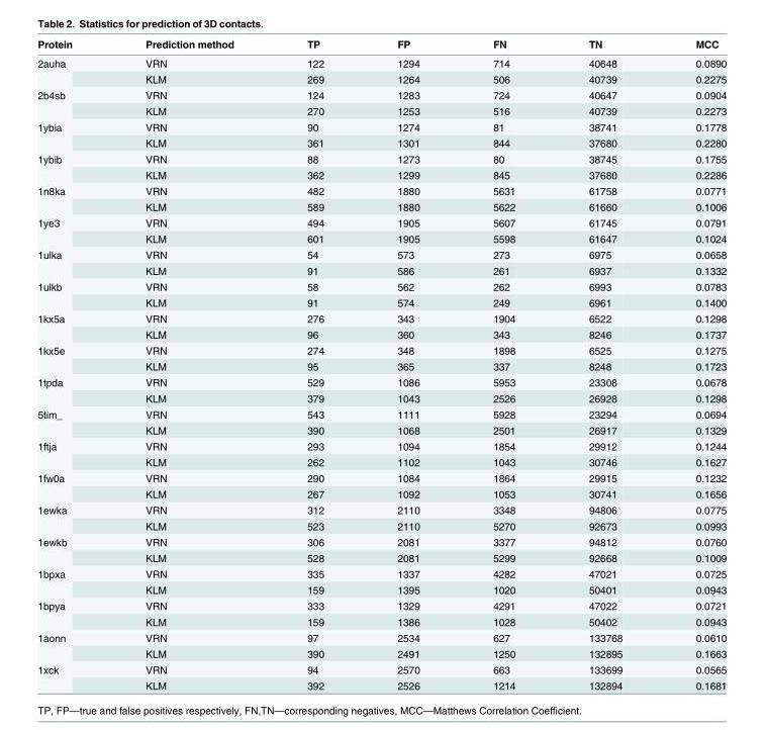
<table><thead><tr><td>Protein</td><td>Prediction method</td><td>TP</td><td>FP</td><td>FN</td><td>TN</td><td>MCC</td></tr></thead><tbody><tr><td rowspan="2">2auha</td><td>VRN</td><td>122</td><td>1294</td><td>714</td><td>40648</td><td>0.0890</td></tr><tr><td>KLM</td><td>269</td><td>1264</td><td>506</td><td>40739</td><td>0.2275</td></tr><tr><td rowspan="2">2b4sb</td><td>VRN</td><td>124</td><td>1283</td><td>724</td><td>40647</td><td>0.0904</td></tr><tr><td>KLM</td><td>270</td><td>1253</td><td>516</td><td>40739</td><td>0.2273</td></tr><tr><td rowspan="2">1ybia</td><td>VRN</td><td>90</td><td>1274</td><td>81</td><td>38741</td><td>0.1778</td></tr><tr><td>KLM</td><td>361</td><td>1301</td><td>844</td><td>37680</td><td>0.2280</td></tr><tr><td rowspan="2">1ybib</td><td>VRN</td><td>88</td><td>1273</td><td>80</td><td>38745</td><td>0.1755</td></tr><tr><td>KLM</td><td>362</td><td>1299</td><td>845</td><td>37680</td><td>0.2286</td></tr><tr><td rowspan="2">1n8ka</td><td>VRN</td><td>482</td><td>1880</td><td>5631</td><td>61758</td><td>0.0771</td></tr><tr><td>KLM</td><td>589</td><td>1880</td><td>5622</td><td>61660</td><td>0.1006</td></tr><tr><td rowspan="2">1ye3</td><td>VRN</td><td>494</td><td>1905</td><td>5607</td><td>61745</td><td>0.0791</td></tr><tr><td>KLM</td><td>601</td><td>1905</td><td>5598</td><td>61647</td><td>0.1024</td></tr><tr><td rowspan="2">1ulka</td><td>VRN</td><td>54</td><td>573</td><td>273</td><td>6975</td><td>0.0658</td></tr><tr><td>KLM</td><td>91</td><td>586</td><td>261</td><td>6937</td><td>0.1332</td></tr><tr><td rowspan="2">1ulkb</td><td>VRN</td><td>58</td><td>562</td><td>262</td><td>6993</td><td>0.0783</td></tr><tr><td>KLM</td><td>91</td><td>574</td><td>249</td><td>6961</td><td>0.1400</td></tr><tr><td rowspan="2">1kx5a</td><td>VRN</td><td>276</td><td>343</td><td>1904</td><td>6522</td><td>0.1298</td></tr><tr><td>KLM</td><td>96</td><td>360</td><td>343</td><td>8246</td><td>0.1737</td></tr><tr><td rowspan="2">1kx5e</td><td>VRN</td><td>274</td><td>348</td><td>1898</td><td>6525</td><td>0.1275</td></tr><tr><td>KLM</td><td>95</td><td>365</td><td>337</td><td>8248</td><td>0.1723</td></tr><tr><td rowspan="2">1tpda</td><td>VRN</td><td>529</td><td>1086</td><td>5953</td><td>23308</td><td>0.0678</td></tr><tr><td>KLM</td><td>379</td><td>1043</td><td>2526</td><td>26928</td><td>0.1298</td></tr><tr><td rowspan="2">5tim_</td><td>VRN</td><td>543</td><td>1111</td><td>5928</td><td>23294</td><td>0.0694</td></tr><tr><td>KLM</td><td>390</td><td>1068</td><td>2501</td><td>26917</td><td>0.1329</td></tr><tr><td rowspan="2">1ftja</td><td>VRN</td><td>293</td><td>1094</td><td>1854</td><td>29912</td><td>0.1244</td></tr><tr><td>KLM</td><td>262</td><td>1102</td><td>1043</td><td>30746</td><td>0.1627</td></tr><tr><td rowspan="2">1fw0a</td><td>VRN</td><td>290</td><td>1084</td><td>1864</td><td>29915</td><td>0.1232</td></tr><tr><td>KLM</td><td>267</td><td>1092</td><td>1053</td><td>30741</td><td>0.1656</td></tr><tr><td rowspan="2">1ewka</td><td>VRN</td><td>312</td><td>2110</td><td>3348</td><td>94806</td><td>0.0775</td></tr><tr><td>KLM</td><td>523</td><td>2110</td><td>5270</td><td>92673</td><td>0.0993</td></tr><tr><td rowspan="2">1ewkb</td><td>VRN</td><td>306</td><td>2081</td><td>3377</td><td>94812</td><td>0.0760</td></tr><tr><td>KLM</td><td>528</td><td>2081</td><td>5299</td><td>92668</td><td>0.1009</td></tr><tr><td rowspan="2">1bpxa</td><td>VRN</td><td>335</td><td>1337</td><td>4282</td><td>47021</td><td>0.0725</td></tr><tr><td>KLM</td><td>159</td><td>1395</td><td>1020</td><td>50401</td><td>0.0943</td></tr><tr><td rowspan="2">1bpya</td><td>VRN</td><td>333</td><td>1329</td><td>4291</td><td>47022</td><td>0.0721</td></tr><tr><td>KLM</td><td>159</td><td>1386</td><td>1028</td><td>50402</td><td>0.0943</td></tr><tr><td rowspan="2">1aonn</td><td>VRN</td><td>97</td><td>2534</td><td>627</td><td>133768</td><td>0.0610</td></tr><tr><td>KLM</td><td>390</td><td>2491</td><td>1250</td><td>132895</td><td>0.1663</td></tr><tr><td rowspan="2">1xck</td><td>VRN</td><td>94</td><td>2570</td><td>663</td><td>133699</td><td>0.0565</td></tr><tr><td>KLM</td><td>392</td><td>2526</td><td>1214</td><td>132894</td><td>0.1681</td></tr></tbody></table>